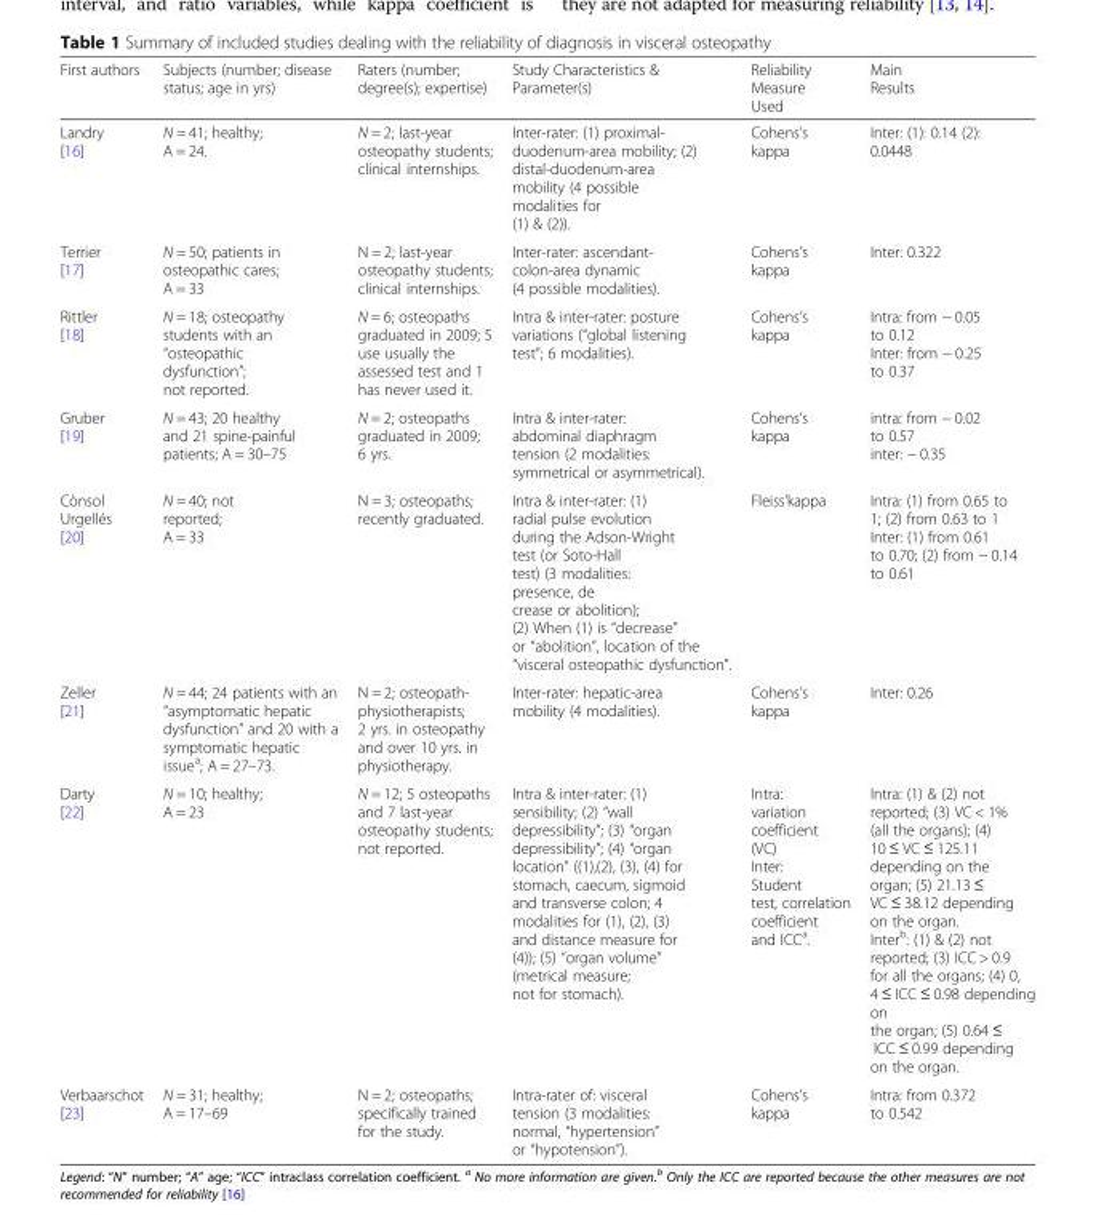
<table><thead><tr><td>First authors</td><td>Subjects (number; disease status; age in yrs)</td><td>Raters (number; degree(s); expertise)</td><td>Study Characteristics &amp; Parameter(s)</td><td>Reliability Measure Used</td><td>Main Results</td></tr></thead><tbody><tr><td>Landry [16]</td><td>N = 41; healthy; A = 24.</td><td>N = 2; last-year osteopathy students; clinical internships.</td><td>Inter-rater: (1) proximal- duodenum-area mobility; (2) distal-duodenum-area mobility (4 possible modalities for (1) &amp; (2)).</td><td>Cohens’s kappa</td><td>Inter: (1): 0.14 (2): 0.0448</td></tr><tr><td>Terrier [17]</td><td>N = 50; patients in osteopathic cares; A = 33</td><td>N = 2; last-year osteopathy students; clinical internships.</td><td>Inter-rater: ascendant- colon-area dynamic (4 possible modalities).</td><td>Cohens’s kappa</td><td>Inter: 0.322</td></tr><tr><td>Rittler [18]</td><td>N = 18; osteopathy students with an “osteopathic dysfunction”; not reported.</td><td>N = 6; osteopaths graduated in 2009; 5 use usually the assessed test and 1 has never used it.</td><td>Intra &amp; inter-rater: posture variations (“global listening test”; 6 modalities).</td><td>Cohens’s kappa</td><td>Intra: from − 0.05 to 0.12 Inter: from − 0.25 to 0.37</td></tr><tr><td>Gruber [19]</td><td>N = 43; 20 healthy and 21 spine-painful patients; A = 30–75</td><td>N = 2; osteopaths graduated in 2009; 6 yrs.</td><td>Intra &amp; inter-rater: abdominal diaphragm tension (2 modalities: symmetrical or asymmetrical).</td><td>Cohens’s kappa</td><td>intra: from − 0.02 to 0.57 inter: − 0.35</td></tr><tr><td>Cònsol Urgellés [20]</td><td>N = 40; not reported; A = 33</td><td>N = 3; osteopaths; recently graduated.</td><td>Intra &amp; inter-rater: (1) radial pulse evolution during the Adson-Wright test (or Soto-Hall test) (3 modalities: presence, de crease or abolition); (2) When (1) is “decrease” or “abolition”, location of the “visceral osteopathic dysfunction”.</td><td>Fleiss’kappa</td><td>Intra: (1) from 0.65 to 1; (2) from 0.63 to 1 Inter: (1) from 0.61 to 0.70; (2) from − 0.14 to 0.61</td></tr><tr><td>Zeller [21]</td><td>N = 44; 24 patients with an “asymptomatic hepatic dysfunction” and 20 with a symptomatic hepatic issue<sup>a</sup>; A = 27–73.</td><td>N = 2; osteopath- physiotherapists; 2 yrs. in osteopathy and over 10 yrs. in physiotherapy.</td><td>Inter-rater: hepatic-area mobility (4 modalities).</td><td>Cohens’s kappa</td><td>Inter: 0.26</td></tr><tr><td>Darty [22]</td><td>N = 10; healthy; A = 23</td><td>N = 12; 5 osteopaths and 7 last-year osteopathy students; not reported.</td><td>Intra &amp; inter-rater: (1) sensibility; (2) “wall depressibility”; (3) “organ depressibility”; (4) “organ location” ((1),(2), (3), (4) for stomach, caecum, sigmoid and transverse colon; 4 modalities for (1), (2), (3) and distance measure for (4)); (5) “organ volume” (metrical measure; not for stomach).</td><td>Intra: variation coefficient (VC) Inter: Student test, correlation coefficient and ICC<sup>a</sup>.</td><td>Intra: (1) &amp; (2) not reported; (3) VC &lt; 1% (all the organs); (4) 10 ≤ VC ≤ 125.11 depending on the organ; (5) 21.13 ≤ VC ≤ 38.12 depending on the organ. Inter<sup>b</sup>: (1) &amp; (2) not reported; (3) ICC &gt; 0.9 for all the organs; (4) 0, 4 ≤ ICC ≤ 0.98 depending on the organ; (5) 0.64 ≤ ICC ≤ 0.99 depending on the organ.</td></tr><tr><td>Verbaarschot [23]</td><td>N = 31; healthy; A = 17–69</td><td>N = 2; osteopaths; specifically trained for the study.</td><td>Intra-rater of: visceral tension (3 modalities: normal, “hypertension” or “hypotension”).</td><td>Cohens’s kappa</td><td>Intra: from 0.372 to 0.542</td></tr></tbody></table>